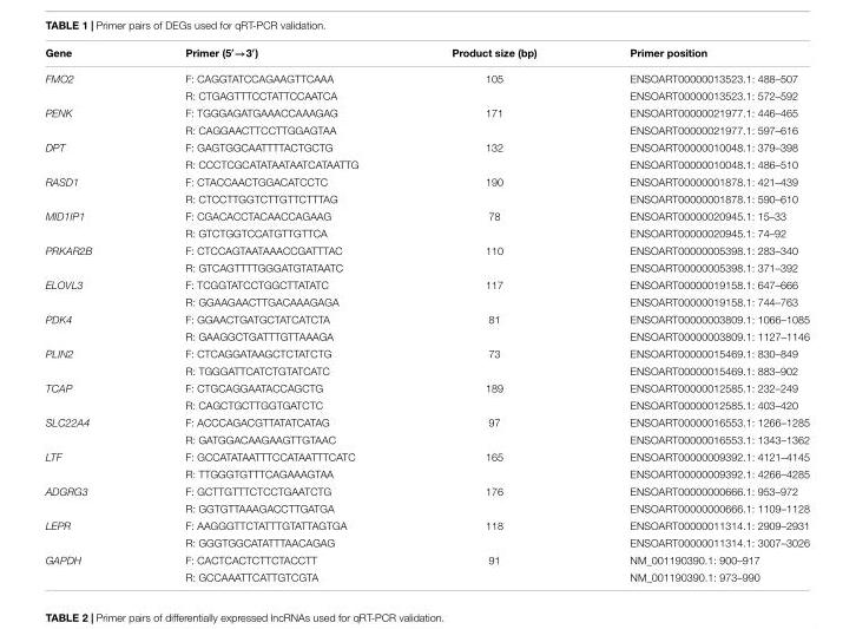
<table><thead><tr><td>Gene</td><td>Primer (5<sup>′</sup>→3<sup>′</sup>)</td><td>Product size (bp)</td><td>Primer position</td></tr></thead><tbody><tr><td rowspan="2">FMO2</td><td>F: CAGGTATCCAGAAGTTCAAA</td><td>105</td><td>ENSOART00000013523.1: 488–507</td></tr><tr><td>R: CTGAGTTTCCTATTCCAATCA</td><td></td><td>ENSOART00000013523.1: 572–592</td></tr><tr><td rowspan="2">PENK</td><td>F: TGGGAGATGAAACCAAAGAG</td><td>171</td><td>ENSOART00000021977.1: 446–465</td></tr><tr><td>R: CAGGAACTTCCTTGGAGTAA</td><td></td><td>ENSOART00000021977.1: 597–616</td></tr><tr><td rowspan="2">DPT</td><td>F: GAGTGGCAATTTTACTGCTG</td><td>132</td><td>ENSOART00000010048.1: 379–398</td></tr><tr><td>R: CCCTCGCATATAATAATCATAATTG</td><td></td><td>ENSOART00000010048.1: 486–510</td></tr><tr><td rowspan="2">RASD1</td><td>F: CTACCAACTGGACATCCTC</td><td>190</td><td>ENSOART00000001878.1: 421–439</td></tr><tr><td>R: CTCCTTGGTCTTGTTCTTTAG</td><td></td><td>ENSOART00000001878.1: 590–610</td></tr><tr><td rowspan="2">MID1IP1</td><td>F: CGACACCTACAACCAGAAG</td><td>78</td><td>ENSOART00000020945.1: 15–33</td></tr><tr><td>R: GTCTGGTCCATGTTGTTCA</td><td></td><td>ENSOART00000020945.1: 74–92</td></tr><tr><td rowspan="2">PRKAR2B</td><td>F: CTCCAGTAATAAACCGATTTAC</td><td>110</td><td>ENSOART00000005398.1: 283–340</td></tr><tr><td>R: GTCAGTTTTGGGATGTATAATC</td><td></td><td>ENSOART00000005398.1: 371–392</td></tr><tr><td rowspan="2">ELOVL3</td><td>F: TCGGTATCCTGGCTTATATC</td><td>117</td><td>ENSOART00000019158.1: 647–666</td></tr><tr><td>R: GGAAGAACTTGACAAAGAGA</td><td></td><td>ENSOART00000019158.1: 744–763</td></tr><tr><td rowspan="2">PDK4</td><td>F: GGAACTGATGCTATCATCTA</td><td>81</td><td>ENSOART00000003809.1: 1066–1085</td></tr><tr><td>R: GAAGGCTGATTTGTTAAAGA</td><td></td><td>ENSOART00000003809.1: 1127–1146</td></tr><tr><td rowspan="2">PLIN2</td><td>F: CTCAGGATAAGCTCTATCTG</td><td>73</td><td>ENSOART00000015469.1: 830–849</td></tr><tr><td>R: TGGGATTCATCTGTATCATC</td><td></td><td>ENSOART00000015469.1: 883–902</td></tr><tr><td rowspan="2">TCAP</td><td>F: CTGCAGGAATACCAGCTG</td><td>189</td><td>ENSOART00000012585.1: 232–249</td></tr><tr><td>R: CAGCTGCTTGGTGATCTC</td><td></td><td>ENSOART00000012585.1: 403–420</td></tr><tr><td rowspan="2">SLC22A4</td><td>F: ACCCAGACGTTATATCATAG</td><td>97</td><td>ENSOART00000016553.1: 1266–1285</td></tr><tr><td>R: GATGGACAAGAAGTTGTAAC</td><td></td><td>ENSOART00000016553.1: 1343–1362</td></tr><tr><td rowspan="2">LTF</td><td>F: GCCATATAATTTCCATAATTTCATC</td><td>165</td><td>ENSOART00000009392.1: 4121–4145</td></tr><tr><td>R: TTGGGTGTTTCAGAAAGTAA</td><td></td><td>ENSOART00000009392.1: 4266–4285</td></tr><tr><td rowspan="2">ADGRG3</td><td>F: GCTTGTTTCTCCTGAATCTG</td><td>176</td><td>ENSOART00000000666.1: 953–972</td></tr><tr><td>R: GGTGTTAAAGACCTTGATGA</td><td></td><td>ENSOART00000000666.1: 1109–1128</td></tr><tr><td rowspan="2">LEPR</td><td>F: AAGGGTTCTATTTGTATTAGTGA</td><td>118</td><td>ENSOART00000011314.1: 2909–2931</td></tr><tr><td>R: GGGTGGCATATTTAACAGAG</td><td></td><td>ENSOART00000011314.1: 3007–3026</td></tr><tr><td rowspan="2">GAPDH</td><td>F: CACTCACTCTTCTACCTT</td><td>91</td><td>NM_001190390.1: 900–917</td></tr><tr><td>R: GCCAAATTCATTGTCGTA</td><td></td><td>NM_001190390.1: 973–990</td></tr></tbody></table>